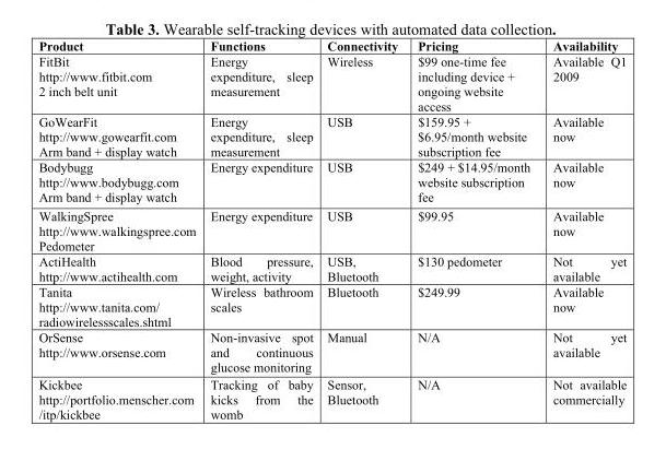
<table><thead><tr><td>Product</td><td>Functions</td><td>Connectivity</td><td>Pricing</td><td>Availability</td></tr></thead><tbody><tr><td>FitBit http://www.fitbit.com 2 inch belt unit</td><td>Energy expenditure, sleep measurement</td><td>Wireless</td><td>$99 one-time fee including device + ongoing website access</td><td>Available Q1 2009</td></tr><tr><td>GoWearFit http://www.gowearfit.com Arm band + display watch</td><td>Energy expenditure, sleep measurement</td><td>USB</td><td>$159.95 + $6.95/month website subscription fee</td><td>Available now</td></tr><tr><td>Bodybugg http://www.bodybugg.com Arm band + display watch</td><td>Energy expenditure</td><td>USB</td><td>$249 + $14.95/month website subscription fee</td><td>Available now</td></tr><tr><td>WalkingSpree http://www.walkingspree.com Pedometer</td><td>Energy expenditure</td><td>USB</td><td>$99.95</td><td>Available now</td></tr><tr><td>ActiHealth http://www.actihealth.com</td><td>Blood pressure, weight, activity</td><td>USB, Bluetooth</td><td>$130 pedometer</td><td>Not yet available</td></tr><tr><td>Tanita http://www.tanita.com/ radiowirelessscales.shtml</td><td>Wireless bathroom scales</td><td>Bluetooth</td><td>$249.99</td><td>Available now</td></tr><tr><td>OrSense http://www.orsense.com</td><td>Non-invasive spot and continuous glucose monitoring</td><td>Manual</td><td>N/A</td><td>Not yet available</td></tr><tr><td>Kickbee http://portfolio.menscher.com /itp/kickbee</td><td>Tracking of baby kicks from the womb</td><td>Sensor, Bluetooth</td><td>N/A</td><td>Not available commercially</td></tr></tbody></table>